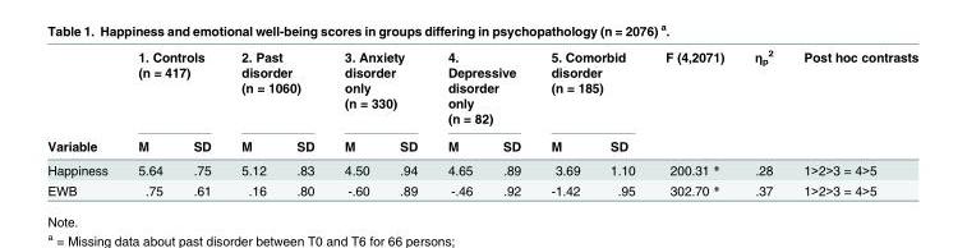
<table><thead><tr><td rowspan="2">Variable</td><td colspan="2">1. Controls (n = 417)</td><td colspan="2">2. Past disorder (n = 1060)</td><td colspan="2">3. Anxiety disorder only (n = 330)</td><td colspan="2">4. Depressive disorder only (n = 82)</td><td colspan="2">5. Comorbid disorder (n = 185)</td><td rowspan="2">F (4,2071)</td><td rowspan="2">η<sub>p</sub> <sup>2</sup></td><td rowspan="2">Post hoc contrasts</td></tr><tr><td>M</td><td>SD</td><td>M</td><td>SD</td><td>M</td><td>SD</td><td>M</td><td>SD</td><td>M</td><td>SD</td></tr></thead><tbody><tr><td>Happiness</td><td>5.64</td><td>.75</td><td>5.12</td><td>.83</td><td>4.50</td><td>.94</td><td>4.65</td><td>.89</td><td>3.69</td><td>1.10</td><td>200.31 *</td><td>.28</td><td>1&gt;2&gt;3 = 4&gt;5</td></tr><tr><td>EWB</td><td>.75</td><td>.61</td><td>.16</td><td>.80</td><td>-.60</td><td>.89</td><td>-.46</td><td>.92</td><td>-1.42</td><td>.95</td><td>302.70 *</td><td>.37</td><td>1&gt;2&gt;3 = 4&gt;5</td></tr></tbody></table>